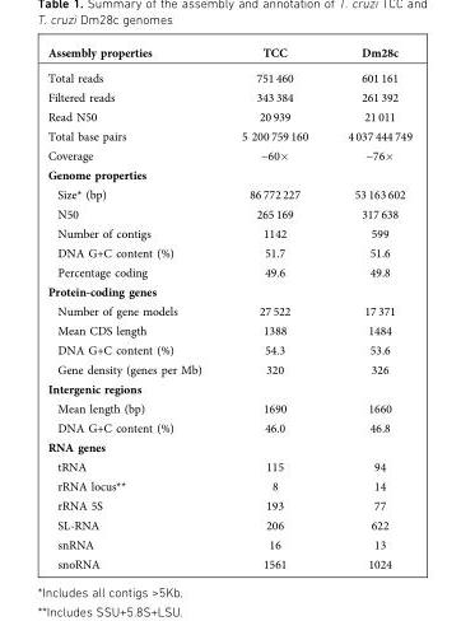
<table><thead><tr><td>Assembly properties</td><td>TCC</td><td>Dm28c</td></tr></thead><tbody><tr><td>Total reads</td><td>751 460</td><td>601 161</td></tr><tr><td>Filtered reads</td><td>343 384</td><td>261 392</td></tr><tr><td>Read N50</td><td>20 939</td><td>21 011</td></tr><tr><td>Total base pairs</td><td>5 200 759 160</td><td>4 037 444 749</td></tr><tr><td>Coverage</td><td>~60×</td><td>~76×</td></tr><tr><td colspan="3">Genome properties</td></tr><tr><td>Size* (bp)</td><td>86 772 227</td><td>53 163 602</td></tr><tr><td>N50</td><td>265 169</td><td>317 638</td></tr><tr><td>Number of contigs</td><td>1142</td><td>599</td></tr><tr><td>DNA G+C content (%)</td><td>51.7</td><td>51.6</td></tr><tr><td>Percentage coding</td><td>49.6</td><td>49.8</td></tr><tr><td colspan="3">Protein-coding genes</td></tr><tr><td>Number of gene models</td><td>27 522</td><td>17 371</td></tr><tr><td>Mean CDS length</td><td>1388</td><td>1484</td></tr><tr><td>DNA G+C content (%)</td><td>54.3</td><td>53.6</td></tr><tr><td>Gene density (genes per Mb)</td><td>320</td><td>326</td></tr><tr><td colspan="3">Intergenic regions</td></tr><tr><td>Mean length (bp)</td><td>1690</td><td>1660</td></tr><tr><td>DNA G+C content (%)</td><td>46.0</td><td>46.8</td></tr><tr><td colspan="3">RNA genes</td></tr><tr><td>tRNA</td><td>115</td><td>94</td></tr><tr><td>rRNA locus**</td><td>8</td><td>14</td></tr><tr><td>rRNA 5S</td><td>193</td><td>77</td></tr><tr><td>SL-RNA</td><td>206</td><td>622</td></tr><tr><td>snRNA</td><td>16</td><td>13</td></tr><tr><td>snoRNA</td><td>1561</td><td>1024</td></tr></tbody></table>